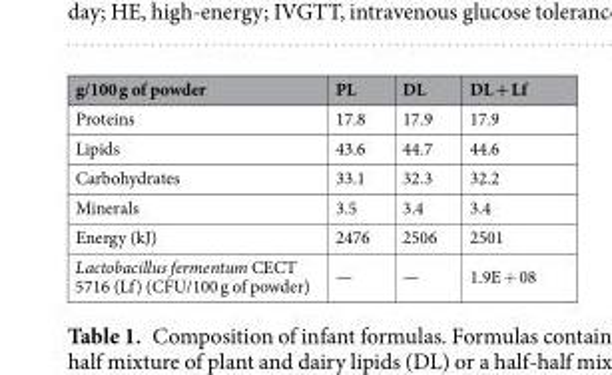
<table><thead><tr><td>g/100 g of powder</td><td>PL</td><td>DL</td><td>DL + Lf</td></tr></thead><tbody><tr><td>Proteins</td><td>17.8</td><td>17.9</td><td>17.9</td></tr><tr><td>Lipids</td><td>43.6</td><td>44.7</td><td>44.6</td></tr><tr><td>Carbohydrates</td><td>33.1</td><td>32.3</td><td>32.2</td></tr><tr><td>Minerals</td><td>3.5</td><td>3.4</td><td>3.4</td></tr><tr><td>Energy (kJ)</td><td>2476</td><td>2506</td><td>2501</td></tr><tr><td>Lactobacillus fermentum CECT 5716 (Lf) (CFU/100 g of powder)</td><td>—</td><td>—</td><td>1.9E + 08</td></tr></tbody></table>